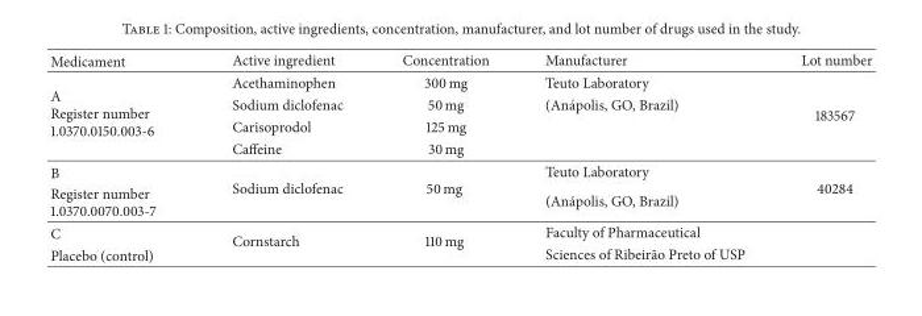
<table><thead><tr><td>Medicament</td><td>Active ingredient</td><td>Concentration</td><td>Manufacturer</td><td>Lot number</td></tr></thead><tbody><tr><td rowspan="4">A Register number 1.0370.0150.003-6</td><td>Acethaminophen</td><td>300 mg</td><td>Teuto Laboratory</td><td rowspan="4">183567</td></tr><tr><td>Sodium diclofenac</td><td>50 mg</td><td>(An´apolis, GO, Brazil)</td></tr><tr><td>Carisoprodol</td><td>125 mg</td><td></td></tr><tr><td>Caffeine</td><td>30 mg</td><td></td></tr><tr><td>B</td><td rowspan="2">Sodium diclofenac</td><td rowspan="2">50 mg</td><td>Teuto Laboratory</td><td rowspan="2">40284</td></tr><tr><td>Register number 1.0370.0070.003-7</td><td>(An´apolis, GO, Brazil)</td></tr><tr><td>C</td><td rowspan="2">Cornstarch</td><td rowspan="2">110 mg</td><td>Faculty of Pharmaceutical</td><td></td></tr><tr><td>Placebo (control)</td><td>Sciences of Ribeir˜ao Preto of USP</td><td></td></tr></tbody></table>